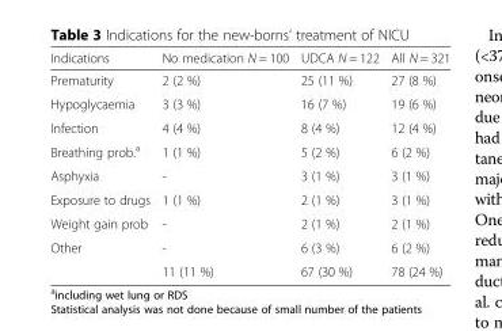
<table><thead><tr><td>Indications</td><td>No medication N = 100</td><td>UDCA N = 122</td><td>All N = 321</td></tr></thead><tbody><tr><td>Prematurity</td><td>2 (2 %)</td><td>25 (11 %)</td><td>27 (8 %)</td></tr><tr><td>Hypoglycaemia</td><td>3 (3 %)</td><td>16 (7 %)</td><td>19 (6 %)</td></tr><tr><td>Infection</td><td>4 (4 %)</td><td>8 (4 %)</td><td>12 (4 %)</td></tr><tr><td>Breathing prob.<sup>a</sup></td><td>1 (1 %)</td><td>5 (2 %)</td><td>6 (2 %)</td></tr><tr><td>Asphyxia</td><td>-</td><td>3 (1 %)</td><td>3 (1 %)</td></tr><tr><td>Exposure to drugs</td><td>1 (1 %)</td><td>2 (1 %)</td><td>3 (1 %)</td></tr><tr><td>Weight gain prob</td><td>-</td><td>2 (1 %)</td><td>2 (1 %)</td></tr><tr><td rowspan="2">Other</td><td>-</td><td>6 (3 %)</td><td>6 (2 %)</td></tr><tr><td>11 (11 %)</td><td>67 (30 %)</td><td>78 (24 %)</td></tr></tbody></table>